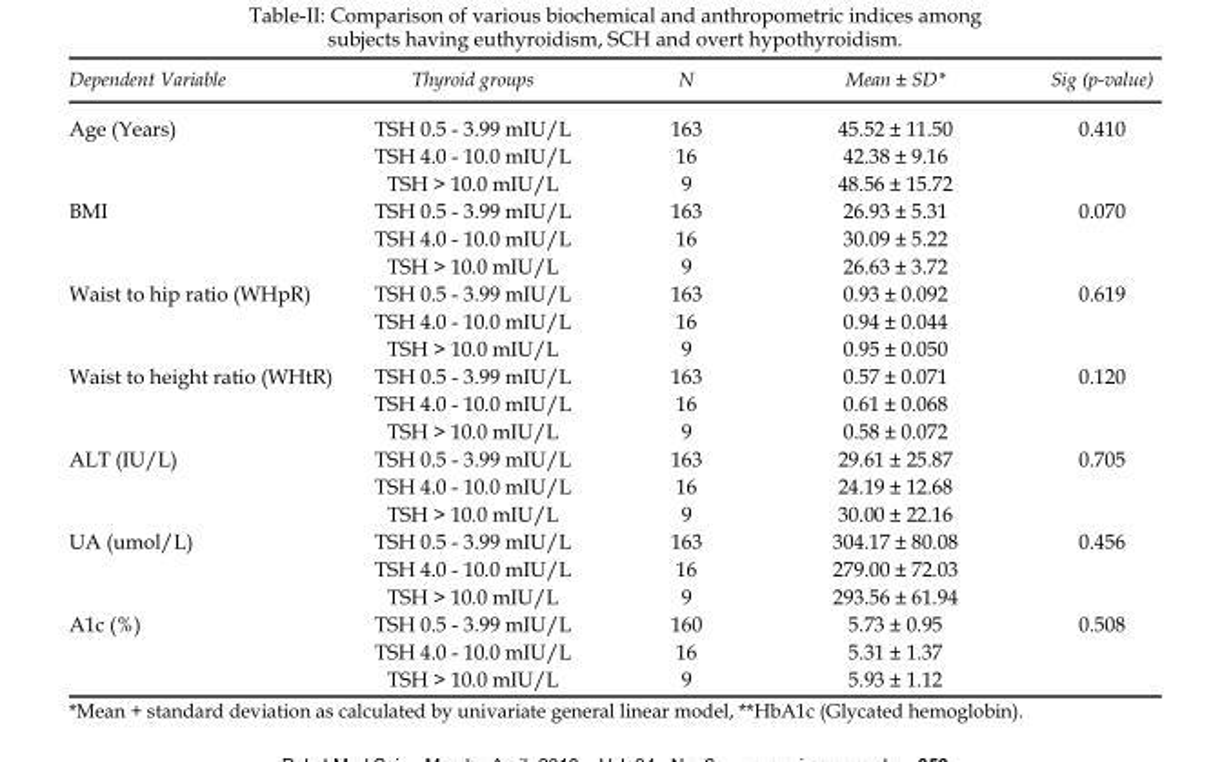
<table><thead><tr><td>Dependent Variable</td><td>Thyroid groups</td><td>N</td><td>Mean ± SD*</td><td>Sig (p-value)</td></tr></thead><tbody><tr><td rowspan="3">Age (Years)</td><td>TSH 0.5 - 3.99 mIU/L</td><td>163</td><td>45.52 ± 11.50</td><td rowspan="3">0.410</td></tr><tr><td>TSH 4.0 - 10.0 mIU/L</td><td>16</td><td>42.38 ± 9.16</td></tr><tr><td>TSH &gt; 10.0 mIU/L</td><td>9</td><td>48.56 ± 15.72</td></tr><tr><td rowspan="3">BMI</td><td>TSH 0.5 - 3.99 mIU/L</td><td>163</td><td>26.93 ± 5.31</td><td rowspan="3">0.070</td></tr><tr><td>TSH 4.0 - 10.0 mIU/L</td><td>16</td><td>30.09 ± 5.22</td></tr><tr><td>TSH &gt; 10.0 mIU/L</td><td>9</td><td>26.63 ± 3.72</td></tr><tr><td rowspan="3">Waist to hip ratio (WHpR)</td><td>TSH 0.5 - 3.99 mIU/L</td><td>163</td><td>0.93 ± 0.092</td><td rowspan="3">0.619</td></tr><tr><td>TSH 4.0 - 10.0 mIU/L</td><td>16</td><td>0.94 ± 0.044</td></tr><tr><td>TSH &gt; 10.0 mIU/L</td><td>9</td><td>0.95 ± 0.050</td></tr><tr><td rowspan="3">Waist to height ratio (WHtR)</td><td>TSH 0.5 - 3.99 mIU/L</td><td>163</td><td>0.57 ± 0.071</td><td rowspan="3">0.120</td></tr><tr><td>TSH 4.0 - 10.0 mIU/L</td><td>16</td><td>0.61 ± 0.068</td></tr><tr><td>TSH &gt; 10.0 mIU/L</td><td>9</td><td>0.58 ± 0.072</td></tr><tr><td rowspan="3">ALT (IU/L)</td><td>TSH 0.5 - 3.99 mIU/L</td><td>163</td><td>29.61 ± 25.87</td><td rowspan="3">0.705</td></tr><tr><td>TSH 4.0 - 10.0 mIU/L</td><td>16</td><td>24.19 ± 12.68</td></tr><tr><td>TSH &gt; 10.0 mIU/L</td><td>9</td><td>30.00 ± 22.16</td></tr><tr><td rowspan="3">UA (umol/L)</td><td>TSH 0.5 - 3.99 mIU/L</td><td>163</td><td>304.17 ± 80.08</td><td rowspan="3">0.456</td></tr><tr><td>TSH 4.0 - 10.0 mIU/L</td><td>16</td><td>279.00 ± 72.03</td></tr><tr><td>TSH &gt; 10.0 mIU/L</td><td>9</td><td>293.56 ± 61.94</td></tr><tr><td rowspan="3">A1c (%)</td><td>TSH 0.5 - 3.99 mIU/L</td><td>160</td><td>5.73 ± 0.95</td><td rowspan="3">0.508</td></tr><tr><td>TSH 4.0 - 10.0 mIU/L</td><td>16</td><td>5.31 ± 1.37</td></tr><tr><td>TSH &gt; 10.0 mIU/L</td><td>9</td><td>5.93 ± 1.12</td></tr></tbody></table>